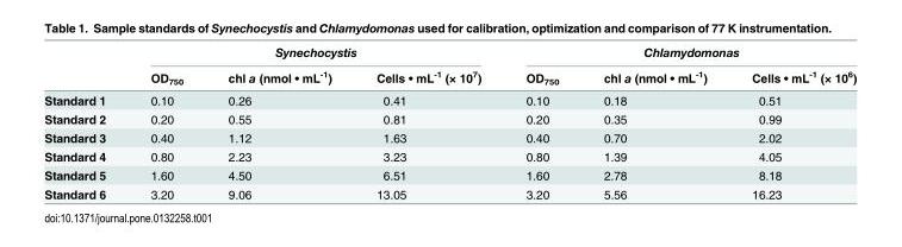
<table><thead><tr><td rowspan="2"></td><td colspan="3">Synechocystis</td><td colspan="3">Chlamydomonas</td></tr><tr><td>OD<sub>750</sub></td><td>chl a (nmol • mL<sup>-1</sup>)</td><td>Cells • mL<sup>-1</sup> (× 10<sup>7</sup>)</td><td>OD<sub>750</sub></td><td>chl a (nmol • mL<sup>-1</sup>)</td><td>Cells • mL<sup>-1</sup> (× 10<sup>6</sup>)</td></tr></thead><tbody><tr><td>Standard 1</td><td>0.10</td><td>0.26</td><td>0.41</td><td>0.10</td><td>0.18</td><td>0.51</td></tr><tr><td>Standard 2</td><td>0.20</td><td>0.55</td><td>0.81</td><td>0.20</td><td>0.35</td><td>0.99</td></tr><tr><td>Standard 3</td><td>0.40</td><td>1.12</td><td>1.63</td><td>0.40</td><td>0.70</td><td>2.02</td></tr><tr><td>Standard 4</td><td>0.80</td><td>2.23</td><td>3.23</td><td>0.80</td><td>1.39</td><td>4.05</td></tr><tr><td>Standard 5</td><td>1.60</td><td>4.50</td><td>6.51</td><td>1.60</td><td>2.78</td><td>8.18</td></tr><tr><td>Standard 6</td><td>3.20</td><td>9.06</td><td>13.05</td><td>3.20</td><td>5.56</td><td>16.23</td></tr></tbody></table>